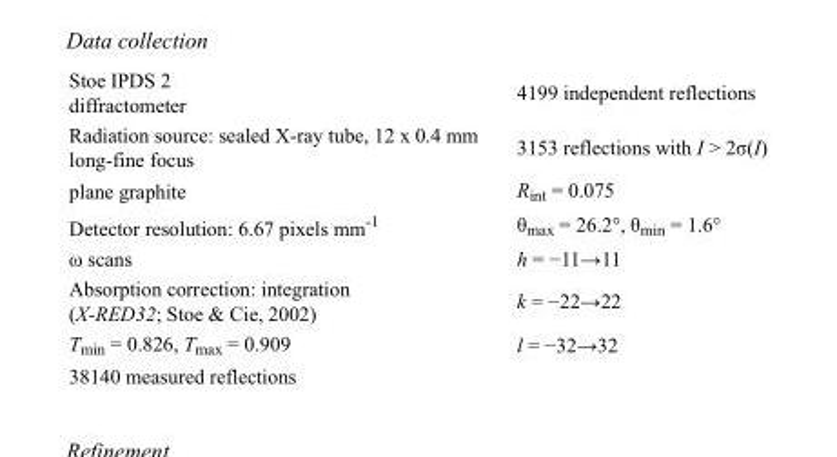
<table><tbody><tr><td>Stoe IPDS 2 diffractometer</td><td>4199 independent reflections</td></tr><tr><td>Radiation source: sealed X-ray tube, 12 x 0.4 mm long-fine focus</td><td>3153 reflections with I &gt; 2σ(I)</td></tr><tr><td>plane graphite</td><td>R<sub>int</sub> = 0.075</td></tr><tr><td>Detector resolution: 6.67 pixels mm<sup>-1</sup></td><td>θ<sub>max</sub> = 26.2°, θ<sub>min</sub> = 1.6°</td></tr><tr><td>ω scans</td><td>h = −11→11</td></tr><tr><td>Absorption correction: integration (X-RED32; Stoe &amp; Cie, 2002)</td><td>k = −22→22</td></tr><tr><td>T<sub>min</sub> = 0.826, T<sub>max</sub> = 0.909</td><td>l = −32→32</td></tr><tr><td>38140 measured reflections</td><td></td></tr></tbody></table>